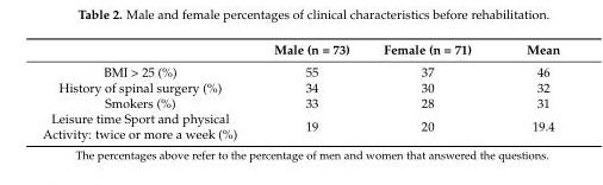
<table><thead><tr><td></td><td>Male (n = 73)</td><td>Female (n = 71)</td><td>Mean</td></tr></thead><tbody><tr><td>BMI &gt; 25 (%)</td><td>55</td><td>37</td><td>46</td></tr><tr><td>History of spinal surgery (%)</td><td>34</td><td>30</td><td>32</td></tr><tr><td>Smokers (%)</td><td>33</td><td>28</td><td>31</td></tr><tr><td>Leisure time Sport and physical Activity: twice or more a week (%)</td><td>19</td><td>20</td><td>19.4</td></tr></tbody></table>